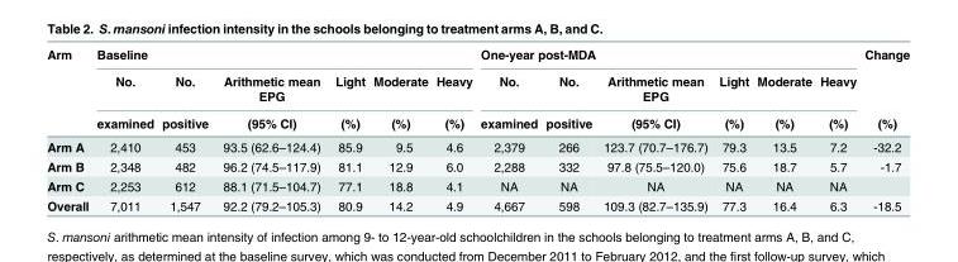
<table><thead><tr><td rowspan="3">Arm</td><td colspan="6">Baseline</td><td colspan="6">One-year post-MDA</td><td rowspan="3">Change (%)</td></tr><tr><td rowspan="2">No. examined</td><td rowspan="2">No. positive</td><td rowspan="2">Arithmetic mean EPG (95% CI)</td><td rowspan="2">Light (%)</td><td rowspan="2">Moderate (%)</td><td rowspan="2">Heavy (%)</td><td rowspan="2">No. examined</td><td rowspan="2">No. positive</td><td rowspan="2">Arithmetic mean EPG (95% CI)</td><td rowspan="2">Light (%)</td><td rowspan="2">Moderate (%)</td><td rowspan="2">Heavy (%)</td></tr><tr></tr></thead><tbody><tr><td>Arm A</td><td>2,410</td><td>453</td><td>93.5 (62.6–124.4)</td><td>85.9</td><td>9.5</td><td>4.6</td><td>2,379</td><td>266</td><td>123.7 (70.7–176.7)</td><td>79.3</td><td>13.5</td><td>7.2</td><td>-32.2</td></tr><tr><td>Arm B</td><td>2,348</td><td>482</td><td>96.2 (74.5–117.9)</td><td>81.1</td><td>12.9</td><td>6.0</td><td>2,288</td><td>332</td><td>97.8 (75.5–120.0)</td><td>75.6</td><td>18.7</td><td>5.7</td><td>-1.7</td></tr><tr><td>Arm C</td><td>2,253</td><td>612</td><td>88.1 (71.5–104.7)</td><td>77.1</td><td>18.8</td><td>4.1</td><td>NA</td><td>NA</td><td>NA</td><td>NA</td><td>NA</td><td>NA</td><td></td></tr><tr><td>Overall</td><td>7,011</td><td>1,547</td><td>92.2 (79.2–105.3)</td><td>80.9</td><td>14.2</td><td>4.9</td><td>4,667</td><td>598</td><td>109.3 (82.7–135.9)</td><td>77.3</td><td>16.4</td><td>6.3</td><td>-18.5</td></tr></tbody></table>